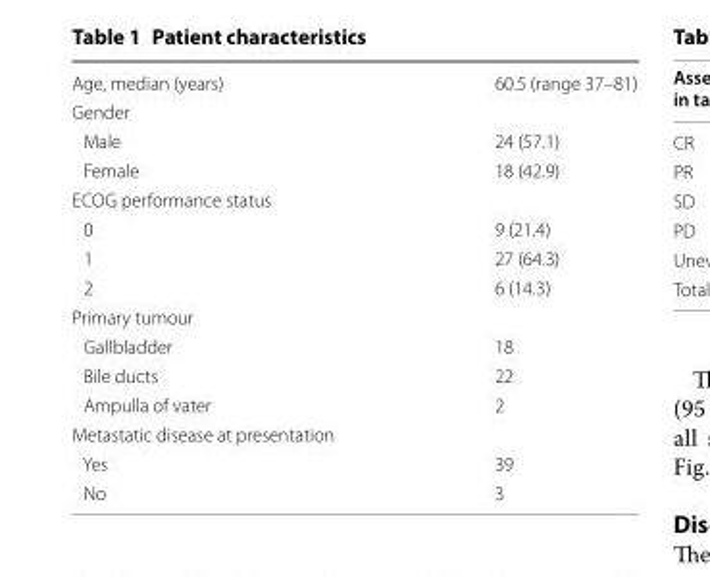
<table><tbody><tr><td>Age, median (years)</td><td>60.5 (range 37–81)</td></tr><tr><td colspan="2">Gender</td></tr><tr><td>Male</td><td>24 (57.1)</td></tr><tr><td>Female</td><td>18 (42.9)</td></tr><tr><td colspan="2">ECOG performance status</td></tr><tr><td>0</td><td>9 (21.4)</td></tr><tr><td>1</td><td>27 (64.3)</td></tr><tr><td>2</td><td>6 (14.3)</td></tr><tr><td colspan="2">Primary tumour</td></tr><tr><td>Gallbladder</td><td>18</td></tr><tr><td>Bile ducts</td><td>22</td></tr><tr><td>Ampulla of vater</td><td>2</td></tr><tr><td colspan="2">Metastatic disease at presentation</td></tr><tr><td>Yes</td><td>39</td></tr><tr><td>No</td><td>3</td></tr></tbody></table>